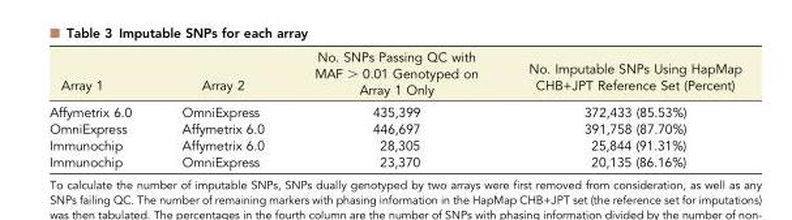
<table><thead><tr><td>Array 1</td><td>Array 2</td><td>No. SNPs Passing QC with MAF &gt; 0.01 Genotyped on Array 1 Only</td><td>No. Imputable SNPs Using HapMap CHB+JPT Reference Set (Percent)</td></tr></thead><tbody><tr><td>Affymetrix 6.0</td><td>OmniExpress</td><td>435,399</td><td>372,433 (85.53%)</td></tr><tr><td>OmniExpress</td><td>Affymetrix 6.0</td><td>446,697</td><td>391,758 (87.70%)</td></tr><tr><td>Immunochip</td><td>Affymetrix 6.0</td><td>28,305</td><td>25,844 (91.31%)</td></tr><tr><td>Immunochip</td><td>OmniExpress</td><td>23,370</td><td>20,135 (86.16%)</td></tr></tbody></table>